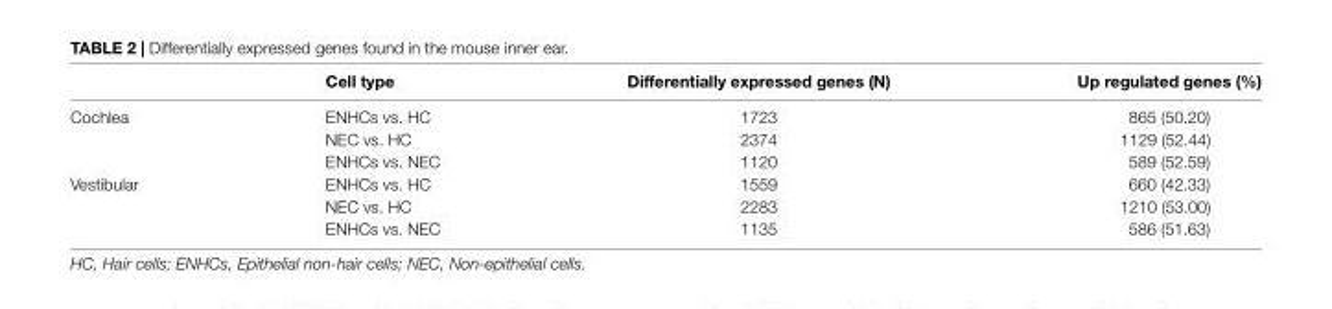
<table><thead><tr><td></td><td>Cell type</td><td>Differentially expressed genes (N)</td><td>Up regulated genes (%)</td></tr></thead><tbody><tr><td rowspan="3">Cochlea</td><td>ENHCs vs. HC</td><td>1723</td><td>865 (50.20)</td></tr><tr><td>NEC vs. HC</td><td>2374</td><td>1129 (52.44)</td></tr><tr><td>ENHCs vs. NEC</td><td>1120</td><td>589 (52.59)</td></tr><tr><td rowspan="3">Vestibular</td><td>ENHCs vs. HC</td><td>1559</td><td>660 (42.33)</td></tr><tr><td>NEC vs. HC</td><td>2283</td><td>1210 (53.00)</td></tr><tr><td>ENHCs vs. NEC</td><td>1135</td><td>586 (51.63)</td></tr></tbody></table>